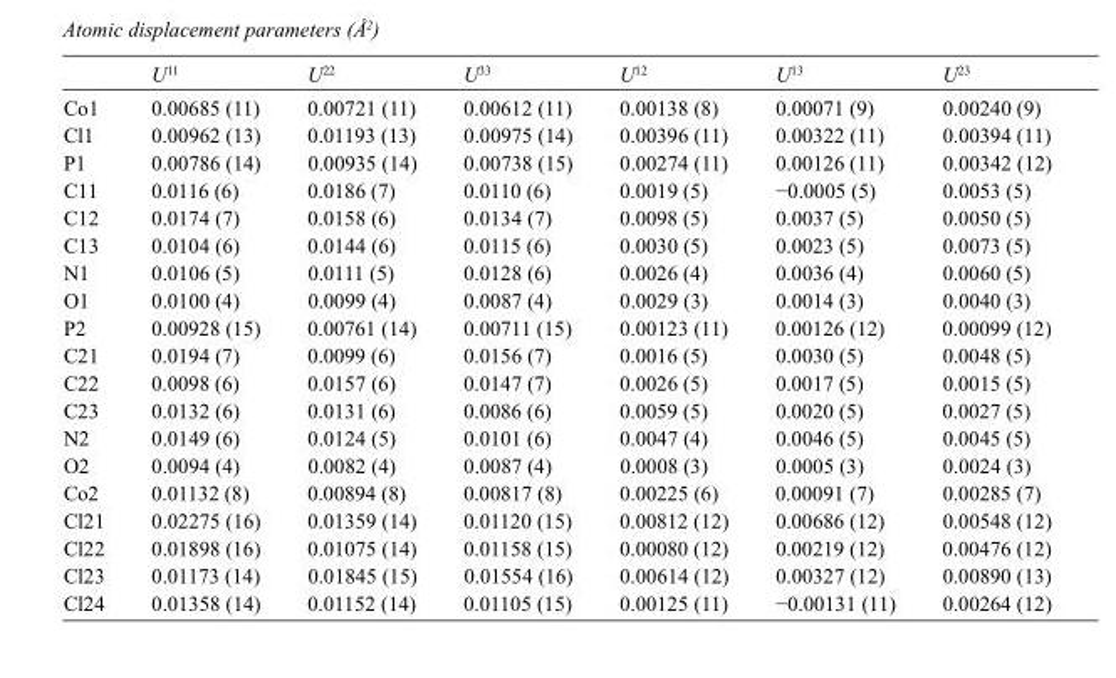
<table><thead><tr><td></td><td>U<sup>11</sup></td><td>U<sup>22</sup></td><td>U<sup>33</sup></td><td>U<sup>12</sup></td><td>U<sup>13</sup></td><td>U<sup>23</sup></td></tr></thead><tbody><tr><td>Co1</td><td>0.00685 (11)</td><td>0.00721 (11)</td><td>0.00612 (11)</td><td>0.00138 (8)</td><td>0.00071 (9)</td><td>0.00240 (9)</td></tr><tr><td>Cl1</td><td>0.00962 (13)</td><td>0.01193 (13)</td><td>0.00975 (14)</td><td>0.00396 (11)</td><td>0.00322 (11)</td><td>0.00394 (11)</td></tr><tr><td>P1</td><td>0.00786 (14)</td><td>0.00935 (14)</td><td>0.00738 (15)</td><td>0.00274 (11)</td><td>0.00126 (11)</td><td>0.00342 (12)</td></tr><tr><td>C11</td><td>0.0116 (6)</td><td>0.0186 (7)</td><td>0.0110 (6)</td><td>0.0019 (5)</td><td>−0.0005 (5)</td><td>0.0053 (5)</td></tr><tr><td>C12</td><td>0.0174 (7)</td><td>0.0158 (6)</td><td>0.0134 (7)</td><td>0.0098 (5)</td><td>0.0037 (5)</td><td>0.0050 (5)</td></tr><tr><td>C13</td><td>0.0104 (6)</td><td>0.0144 (6)</td><td>0.0115 (6)</td><td>0.0030 (5)</td><td>0.0023 (5)</td><td>0.0073 (5)</td></tr><tr><td>N1</td><td>0.0106 (5)</td><td>0.0111 (5)</td><td>0.0128 (6)</td><td>0.0026 (4)</td><td>0.0036 (4)</td><td>0.0060 (5)</td></tr><tr><td>O1</td><td>0.0100 (4)</td><td>0.0099 (4)</td><td>0.0087 (4)</td><td>0.0029 (3)</td><td>0.0014 (3)</td><td>0.0040 (3)</td></tr><tr><td>P2</td><td>0.00928 (15)</td><td>0.00761 (14)</td><td>0.00711 (15)</td><td>0.00123 (11)</td><td>0.00126 (12)</td><td>0.00099 (12)</td></tr><tr><td>C21</td><td>0.0194 (7)</td><td>0.0099 (6)</td><td>0.0156 (7)</td><td>0.0016 (5)</td><td>0.0030 (5)</td><td>0.0048 (5)</td></tr><tr><td>C22</td><td>0.0098 (6)</td><td>0.0157 (6)</td><td>0.0147 (7)</td><td>0.0026 (5)</td><td>0.0017 (5)</td><td>0.0015 (5)</td></tr><tr><td>C23</td><td>0.0132 (6)</td><td>0.0131 (6)</td><td>0.0086 (6)</td><td>0.0059 (5)</td><td>0.0020 (5)</td><td>0.0027 (5)</td></tr><tr><td>N2</td><td>0.0149 (6)</td><td>0.0124 (5)</td><td>0.0101 (6)</td><td>0.0047 (4)</td><td>0.0046 (5)</td><td>0.0045 (5)</td></tr><tr><td>O2</td><td>0.0094 (4)</td><td>0.0082 (4)</td><td>0.0087 (4)</td><td>0.0008 (3)</td><td>0.0005 (3)</td><td>0.0024 (3)</td></tr><tr><td>Co2</td><td>0.01132 (8)</td><td>0.00894 (8)</td><td>0.00817 (8)</td><td>0.00225 (6)</td><td>0.00091 (7)</td><td>0.00285 (7)</td></tr><tr><td>Cl21</td><td>0.02275 (16)</td><td>0.01359 (14)</td><td>0.01120 (15)</td><td>0.00812 (12)</td><td>0.00686 (12)</td><td>0.00548 (12)</td></tr><tr><td>Cl22</td><td>0.01898 (16)</td><td>0.01075 (14)</td><td>0.01158 (15)</td><td>0.00080 (12)</td><td>0.00219 (12)</td><td>0.00476 (12)</td></tr><tr><td>Cl23</td><td>0.01173 (14)</td><td>0.01845 (15)</td><td>0.01554 (16)</td><td>0.00614 (12)</td><td>0.00327 (12)</td><td>0.00890 (13)</td></tr><tr><td>Cl24</td><td>0.01358 (14)</td><td>0.01152 (14)</td><td>0.01105 (15)</td><td>0.00125 (11)</td><td>−0.00131 (11)</td><td>0.00264 (12)</td></tr></tbody></table>